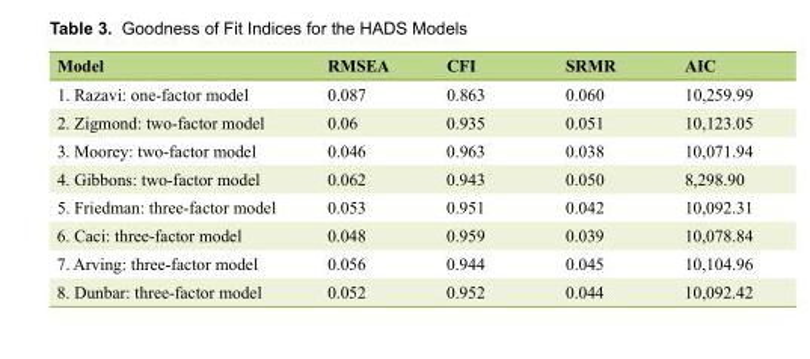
<table><thead><tr><td>Model</td><td>RMSEA</td><td>CFI</td><td>SRMR</td><td>AIC</td></tr></thead><tbody><tr><td>1. Razavi: one-factor model</td><td>0.087</td><td>0.863</td><td>0.060</td><td>10,259.99</td></tr><tr><td>2. Zigmond: two-factor model</td><td>0.06</td><td>0.935</td><td>0.051</td><td>10,123.05</td></tr><tr><td>3. Moorey: two-factor model</td><td>0.046</td><td>0.963</td><td>0.038</td><td>10,071.94</td></tr><tr><td>4. Gibbons: two-factor model</td><td>0.062</td><td>0.943</td><td>0.050</td><td>8,298.90</td></tr><tr><td>5. Friedman: three-factor model</td><td>0.053</td><td>0.951</td><td>0.042</td><td>10,092.31</td></tr><tr><td>6. Caci: three-factor model</td><td>0.048</td><td>0.959</td><td>0.039</td><td>10,078.84</td></tr><tr><td>7. Arving: three-factor model</td><td>0.056</td><td>0.944</td><td>0.045</td><td>10,104.96</td></tr><tr><td>8. Dunbar: three-factor model</td><td>0.052</td><td>0.952</td><td>0.044</td><td>10,092.42</td></tr></tbody></table>